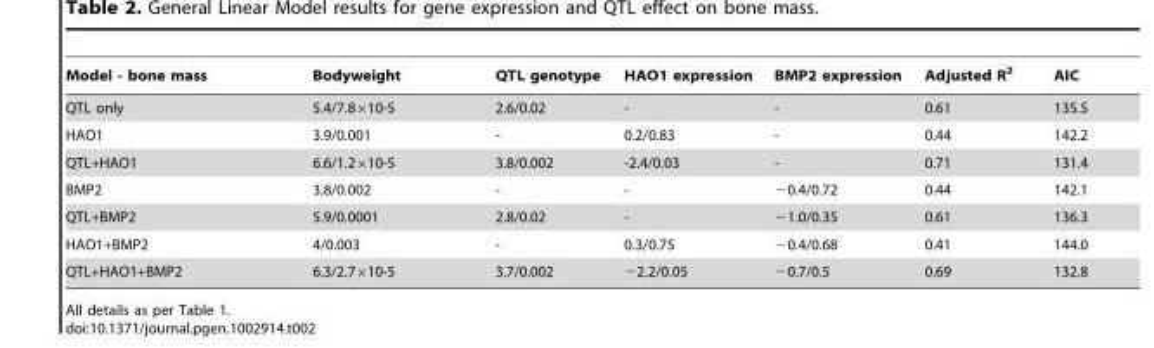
<table><thead><tr><td>Model - bone mass</td><td>Bodyweight</td><td>QTL genotype</td><td>HAO1 expression</td><td>BMP2 expression</td><td>Adjusted R<sup>2</sup></td><td>AIC</td></tr></thead><tbody><tr><td>QTL only</td><td>5.4/7.8×10-5</td><td>2.6/0.02</td><td>-</td><td>-</td><td>0.61</td><td>135.5</td></tr><tr><td>HAO1</td><td>3.9/0.001</td><td>-</td><td>0.2/0.83</td><td>-</td><td>0.44</td><td>142.2</td></tr><tr><td>QTL+HAO1</td><td>6.6/1.2×10-5</td><td>3.8/0.002</td><td>-2.4/0.03</td><td>-</td><td>0.71</td><td>131.4</td></tr><tr><td>BMP2</td><td>3.8/0.002</td><td>-</td><td>-</td><td>−0.4/0.72</td><td>0.44</td><td>142.1</td></tr><tr><td>QTL+BMP2</td><td>5.9/0.0001</td><td>2.8/0.02</td><td>-</td><td>−1.0/0.35</td><td>0.61</td><td>136.3</td></tr><tr><td>HAO1+BMP2</td><td>4/0.003</td><td>-</td><td>0.3/0.75</td><td>−0.4/0.68</td><td>0.41</td><td>144.0</td></tr><tr><td>QTL+HAO1+BMP2</td><td>6.3/2.7×10-5</td><td>3.7/0.002</td><td>−2.2/0.05</td><td>−0.7/0.5</td><td>0.69</td><td>132.8</td></tr></tbody></table>